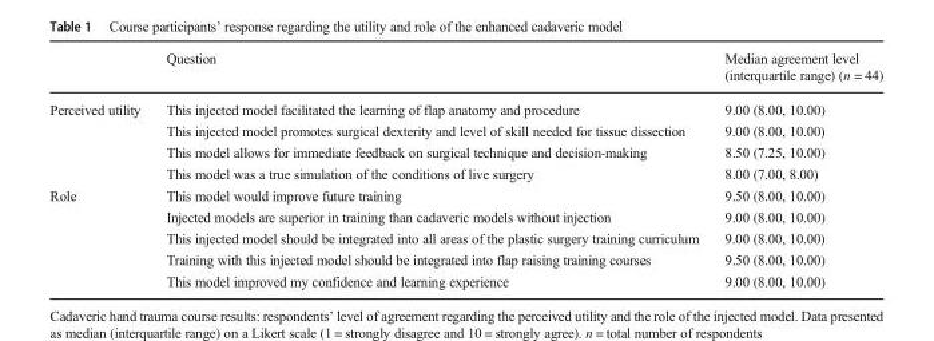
<table><thead><tr><td></td><td>Question</td><td>Median agreement level (interquartile range) (n = 44)</td></tr></thead><tbody><tr><td rowspan="4">Perceived utility</td><td>This injected model facilitated the learning of flap anatomy and procedure</td><td>9.00 (8.00, 10.00)</td></tr><tr><td>This injected model promotes surgical dexterity and level of skill needed for tissue dissection</td><td>9.00 (8.00, 10.00)</td></tr><tr><td>This model allows for immediate feedback on surgical technique and decision-making</td><td>8.50 (7.25, 10.00)</td></tr><tr><td>This model was a true simulation of the conditions of live surgery</td><td>8.00 (7.00, 8.00)</td></tr><tr><td rowspan="5">Role</td><td>This model would improve future training</td><td>9.50 (8.00, 10.00)</td></tr><tr><td>Injected models are superior in training than cadaveric models without injection</td><td>9.00 (8.00, 10.00)</td></tr><tr><td>This injected model should be integrated into all areas of the plastic surgery training curriculum</td><td>9.00 (8.00, 10.00)</td></tr><tr><td>Training with this injected model should be integrated into flap raising training courses</td><td>9.50 (8.00, 10.00)</td></tr><tr><td>This model improved my confidence and learning experience</td><td>9.00 (8.00, 10.00)</td></tr></tbody></table>